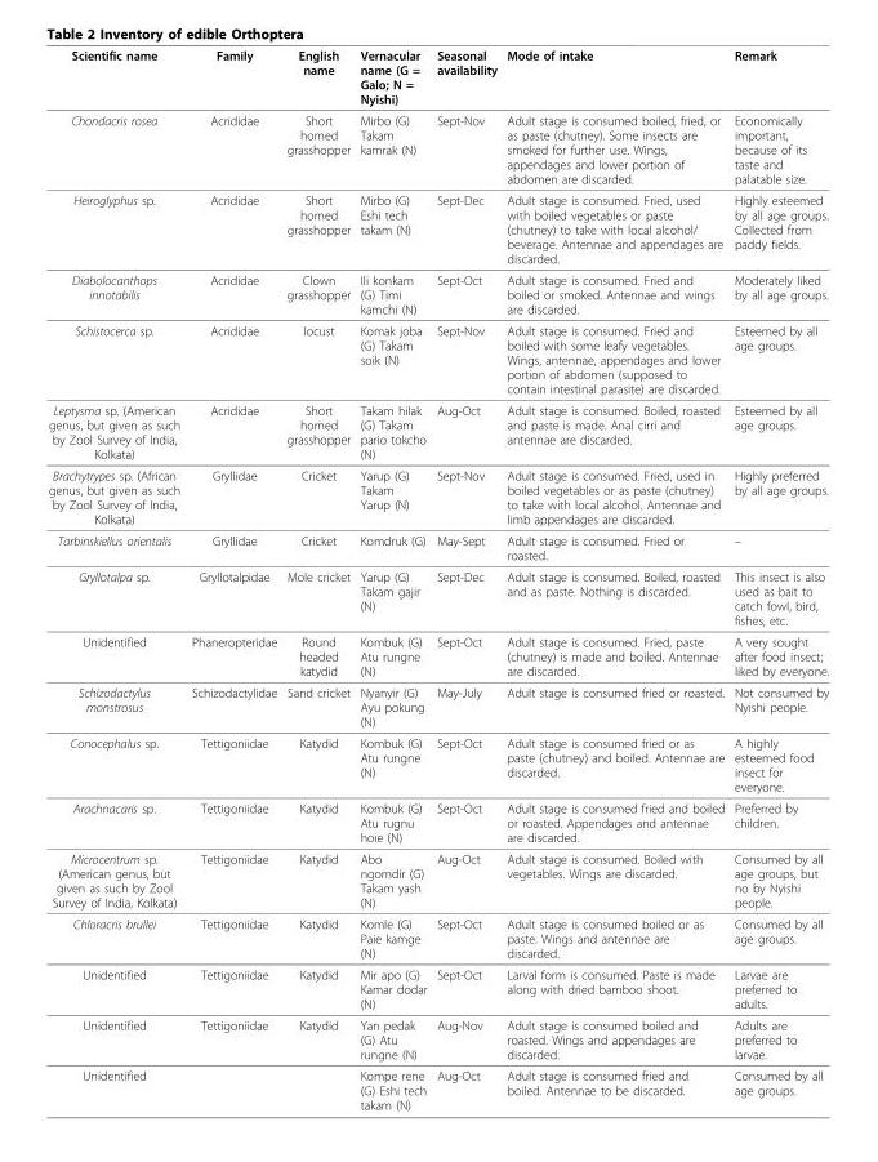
<table><thead><tr><td>Scientific name</td><td>Family</td><td>English name</td><td>Vernacular name (G = Galo; N = Nyishi)</td><td>Seasonal availability</td><td>Mode of intake</td><td>Remark</td></tr></thead><tbody><tr><td>Chondacris rosea</td><td>Acrididae</td><td>Short horned grasshopper</td><td>Mirbo (G) Takam kamrak (N)</td><td>Sept-Nov</td><td>Adult stage is consumed boiled, fried, or as paste (chutney). Some insects are smoked for further use. Wings, appendages and lower portion of abdomen are discarded.</td><td>Economically important, because of its taste and palatable size.</td></tr><tr><td>Heiroglyphus sp.</td><td>Acrididae</td><td>Short horned grasshopper</td><td>Mirbo (G) Eshi tech takam (N)</td><td>Sept-Dec</td><td>Adult stage is consumed. Fried, used with boiled vegetables or paste (chutney) to take with local alcohol/ beverage. Antennae and appendages are discarded.</td><td>Highly esteemed by all age groups. Collected from paddy fields.</td></tr><tr><td>Diabolocanthops innotabilis</td><td>Acrididae</td><td>Clown grasshopper</td><td>Ili konkam (G) Timi kamchi (N)</td><td>Sept-Oct</td><td>Adult stage is consumed. Fried and boiled or smoked. Antennae and wings are discarded.</td><td>Moderately liked by all age groups.</td></tr><tr><td>Schistocerca sp.</td><td>Acrididae</td><td>locust</td><td>Komak joba (G) Takam soik (N)</td><td>Sept-Nov</td><td>Adult stage is consumed. Fried and boiled with some leafy vegetables. Wings, antennae, appendages and lower portion of abdomen (supposed to contain intestinal parasite) are discarded.</td><td>Esteemed by all age groups.</td></tr><tr><td>Leptysma sp. (American genus, but given as such by Zool Survey of India, Kolkata)</td><td>Acrididae</td><td>Short horned grasshopper</td><td>Takam hilak (G) Takam pario tokcho (N)</td><td>Aug-Oct</td><td>Adult stage is consumed. Boiled, roasted and paste is made. Anal cirri and antennae are discarded.</td><td>Esteemed by all age groups.</td></tr><tr><td>Brachytrypes sp. (African genus, but given as such by Zool Survey of India, Kolkata)</td><td>Gryllidae</td><td>Cricket</td><td>Yarup (G) Takam Yarup (N)</td><td>Sept-Nov</td><td>Adult stage is consumed. Fried, used in boiled vegetables or as paste (chutney) to take with local alcohol. Antennae and limb appendages are discarded.</td><td>Highly preferred by all age groups.</td></tr><tr><td>Tarbinskiellus orientalis</td><td>Gryllidae</td><td>Cricket</td><td>Komdruk (G)</td><td>May-Sept</td><td>Adult stage is consumed. Fried or roasted.</td><td>–</td></tr><tr><td>Gryllotalpa sp.</td><td>Gryllotalpidae</td><td>Mole cricket</td><td>Yarup (G) Takam gajir (N)</td><td>Sept-Dec</td><td>Adult stage is consumed. Boiled, roasted and as paste. Nothing is discarded.</td><td>This insect is also used as bait to catch fowl, bird, fishes, etc.</td></tr><tr><td>Unidentified</td><td>Phaneropteridae</td><td>Round headed katydid</td><td>Kombuk (G) Atu rungne (N)</td><td>Sept-Oct</td><td>Adult stage is consumed. Fried, paste (chutney) is made and boiled. Antennae are discarded.</td><td>A very sought after food insect; liked by everyone.</td></tr><tr><td>Schizodactylus monstrosus</td><td>Schizodactylidae</td><td>Sand cricket</td><td>Nyanyir (G) Ayu pokung (N)</td><td>May-July</td><td>Adult stage is consumed fried or roasted.</td><td>Not consumed by Nyishi people.</td></tr><tr><td>Conocephalus sp.</td><td>Tettigoniidae</td><td>Katydid</td><td>Kombuk (G) Atu rungne (N)</td><td>Sept-Oct</td><td>Adult stage is consumed fried or as paste (chutney) and boiled. Antennae are discarded.</td><td>A highly esteemed food insect for everyone.</td></tr><tr><td>Arachnacaris sp.</td><td>Tettigoniidae</td><td>Katydid</td><td>Kombuk (G) Atu rugnu hoie (N)</td><td>Sept-Oct</td><td>Adult stage is consumed fried and boiled or roasted. Appendages and antennae are discarded.</td><td>Preferred by children.</td></tr><tr><td>Microcentrum sp. (American genus, but given as such by Zool Survey of India, Kolkata)</td><td>Tettigoniidae</td><td>Katydid</td><td>Abo ngomdir (G) Takam yash (N)</td><td>Aug-Oct</td><td>Adult stage is consumed. Boiled with vegetables. Wings are discarded.</td><td>Consumed by all age groups, but no by Nyishi people.</td></tr><tr><td>Chloracris brullei</td><td>Tettigoniidae</td><td>Katydid</td><td>Komle (G) Paie kamge (N)</td><td>Sept-Oct</td><td>Adult stage is consumed boiled or as paste. Wings and antennae are discarded.</td><td>Consumed by all age groups.</td></tr><tr><td>Unidentified</td><td>Tettigoniidae</td><td>Katydid</td><td>Mir apo (G) Kamar dodar (N)</td><td>Sept-Oct</td><td>Larval form is consumed. Paste is made along with dried bamboo shoot.</td><td>Larvae are preferred to adults.</td></tr><tr><td>Unidentified</td><td>Tettigoniidae</td><td>Katydid</td><td>Yan pedak (G) Atu rungne (N)</td><td>Aug-Nov</td><td>Adult stage is consumed boiled and roasted. Wings and appendages are discarded.</td><td>Adults are preferred to larvae.</td></tr><tr><td>Unidentified</td><td></td><td></td><td>Kompe rene (G) Eshi tech takam (N)</td><td>Aug-Oct</td><td>Adult stage is consumed fried and boiled. Antennae to be discarded.</td><td>Consumed by all age groups.</td></tr></tbody></table>